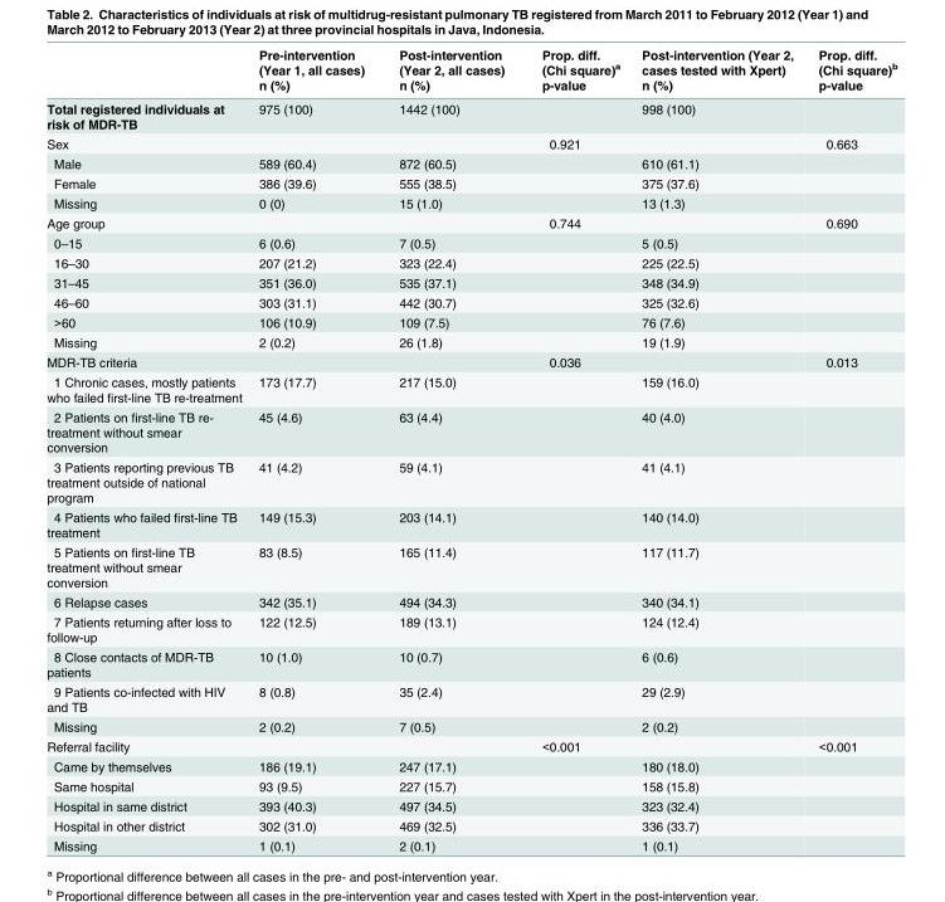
<table><thead><tr><td rowspan="2"></td><td rowspan="2">Pre-intervention (Year 1, all cases) n (%)</td><td rowspan="2">Post-intervention (Year 2, all cases) n (%)</td><td rowspan="2">Prop. diff. (Chi square)<sup>a</sup> p-value</td><td rowspan="2">Post-intervention (Year 2, cases tested with Xpert) n (%)</td><td rowspan="2">Prop. diff. (Chi square)<sup>b</sup> p-value</td></tr><tr></tr></thead><tbody><tr><td>Total registered individuals at risk of MDR-TB</td><td>975 (100)</td><td>1442 (100)</td><td></td><td>998 (100)</td><td></td></tr><tr><td>Sex</td><td></td><td></td><td>0.921</td><td></td><td>0.663</td></tr><tr><td>Male</td><td>589 (60.4)</td><td>872 (60.5)</td><td></td><td>610 (61.1)</td><td></td></tr><tr><td>Female</td><td>386 (39.6)</td><td>555 (38.5)</td><td></td><td>375 (37.6)</td><td></td></tr><tr><td>Missing</td><td>0 (0)</td><td>15 (1.0)</td><td></td><td>13 (1.3)</td><td></td></tr><tr><td>Age group</td><td></td><td></td><td>0.744</td><td></td><td>0.690</td></tr><tr><td>0–15</td><td>6 (0.6)</td><td>7 (0.5)</td><td></td><td>5 (0.5)</td><td></td></tr><tr><td>16–30</td><td>207 (21.2)</td><td>323 (22.4)</td><td></td><td>225 (22.5)</td><td></td></tr><tr><td>31–45</td><td>351 (36.0)</td><td>535 (37.1)</td><td></td><td>348 (34.9)</td><td></td></tr><tr><td>46–60</td><td>303 (31.1)</td><td>442 (30.7)</td><td></td><td>325 (32.6)</td><td></td></tr><tr><td>&gt;60</td><td>106 (10.9)</td><td>109 (7.5)</td><td></td><td>76 (7.6)</td><td></td></tr><tr><td>Missing</td><td>2 (0.2)</td><td>26 (1.8)</td><td></td><td>19 (1.9)</td><td></td></tr><tr><td>MDR-TB criteria</td><td></td><td></td><td>0.036</td><td></td><td>0.013</td></tr><tr><td>1 Chronic cases, mostly patients who failed first-line TB re-treatment</td><td>173 (17.7)</td><td>217 (15.0)</td><td></td><td>159 (16.0)</td><td></td></tr><tr><td>2 Patients on first-line TB re- treatment without smear conversion</td><td>45 (4.6)</td><td>63 (4.4)</td><td></td><td>40 (4.0)</td><td></td></tr><tr><td>3 Patients reporting previous TB treatment outside of national program</td><td>41 (4.2)</td><td>59 (4.1)</td><td></td><td>41 (4.1)</td><td></td></tr><tr><td>4 Patients who failed first-line TB treatment</td><td>149 (15.3)</td><td>203 (14.1)</td><td></td><td>140 (14.0)</td><td></td></tr><tr><td>5 Patients on first-line TB treatment without smear conversion</td><td>83 (8.5)</td><td>165 (11.4)</td><td></td><td>117 (11.7)</td><td></td></tr><tr><td>6 Relapse cases</td><td>342 (35.1)</td><td>494 (34.3)</td><td></td><td>340 (34.1)</td><td></td></tr><tr><td>7 Patients returning after loss to follow-up</td><td>122 (12.5)</td><td>189 (13.1)</td><td></td><td>124 (12.4)</td><td></td></tr><tr><td>8 Close contacts of MDR-TB patients</td><td>10 (1.0)</td><td>10 (0.7)</td><td></td><td>6 (0.6)</td><td></td></tr><tr><td>9 Patients co-infected with HIV and TB</td><td>8 (0.8)</td><td>35 (2.4)</td><td></td><td>29 (2.9)</td><td></td></tr><tr><td>Missing</td><td>2 (0.2)</td><td>7 (0.5)</td><td></td><td>2 (0.2)</td><td></td></tr><tr><td>Referral facility</td><td></td><td></td><td>&lt;0.001</td><td></td><td>&lt;0.001</td></tr><tr><td>Came by themselves</td><td>186 (19.1)</td><td>247 (17.1)</td><td></td><td>180 (18.0)</td><td></td></tr><tr><td>Same hospital</td><td>93 (9.5)</td><td>227 (15.7)</td><td></td><td>158 (15.8)</td><td></td></tr><tr><td>Hospital in same district</td><td>393 (40.3)</td><td>497 (34.5)</td><td></td><td>323 (32.4)</td><td></td></tr><tr><td>Hospital in other district</td><td>302 (31.0)</td><td>469 (32.5)</td><td></td><td>336 (33.7)</td><td></td></tr><tr><td>Missing</td><td>1 (0.1)</td><td>2 (0.1)</td><td></td><td>1 (0.1)</td><td></td></tr></tbody></table>